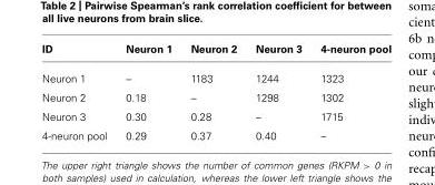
<table><thead><tr><td>ID</td><td>Neuron 1</td><td>Neuron 2</td><td>Neuron 3</td><td>4-neuron pool</td></tr></thead><tbody><tr><td>Neuron 1</td><td>–</td><td>1183</td><td>1244</td><td>1323</td></tr><tr><td>Neuron 2</td><td>0.18</td><td>–</td><td>1298</td><td>1302</td></tr><tr><td>Neuron 3</td><td>0.30</td><td>0.28</td><td>–</td><td>1715</td></tr><tr><td>4-neuron pool</td><td>0.29</td><td>0.37</td><td>0.40</td><td>–</td></tr></tbody></table>